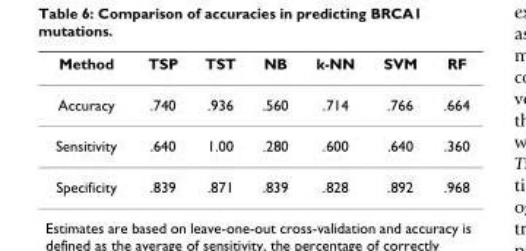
<table><thead><tr><td>Method</td><td>TSP</td><td>TST</td><td>NB</td><td>k-NN</td><td>SVM</td><td>RF</td></tr></thead><tbody><tr><td>Accuracy</td><td>.740</td><td>.936</td><td>.560</td><td>.714</td><td>.766</td><td>.664</td></tr><tr><td>Sensitivity</td><td>.640</td><td>1.00</td><td>.280</td><td>.600</td><td>.640</td><td>.360</td></tr><tr><td>Specificity</td><td>.839</td><td>.871</td><td>.839</td><td>.828</td><td>.892</td><td>.968</td></tr></tbody></table>